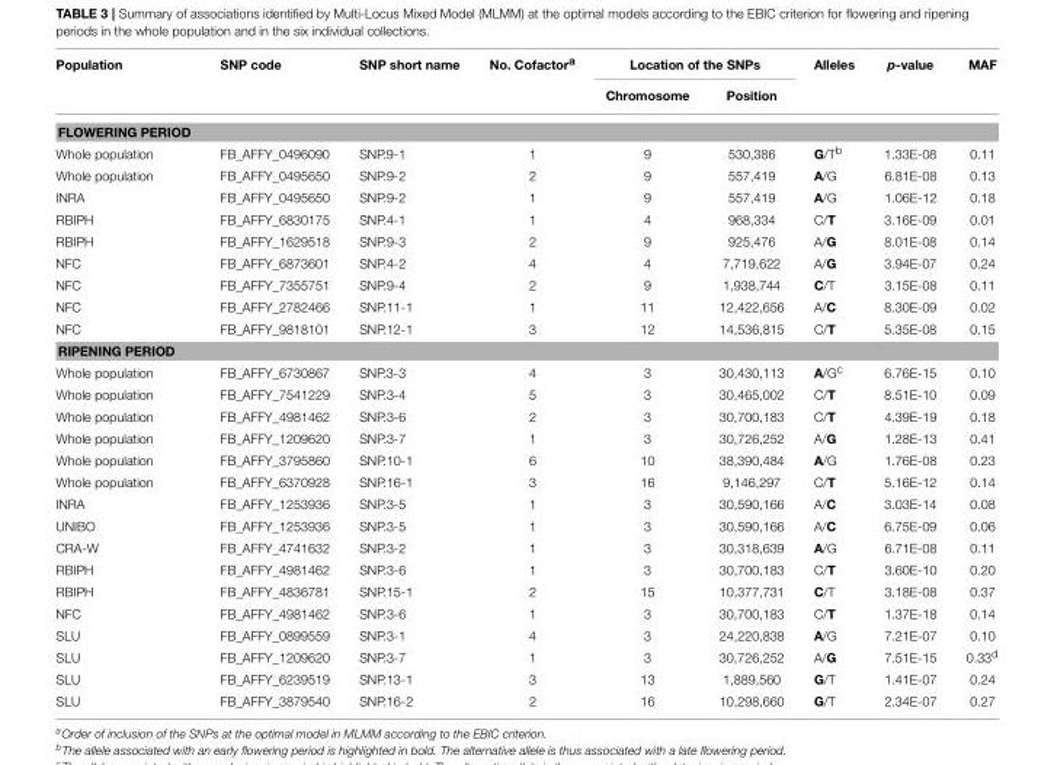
<table><thead><tr><td rowspan="2">Population</td><td rowspan="2">SNP code</td><td rowspan="2">SNP short name</td><td rowspan="2">No. Cofactor<sup>a</sup></td><td colspan="2">Location of the SNPs</td><td rowspan="2">Alleles</td><td rowspan="2">p-value</td><td rowspan="2">MAF</td></tr><tr><td>Chromosome</td><td>Position</td></tr></thead><tbody><tr><td colspan="9">FLOWERING PERIOD</td></tr><tr><td>Whole population</td><td>FB_AFFY_0496090</td><td>SNP.9-1</td><td>1</td><td>9</td><td>530,386</td><td>G/T<sup>b</sup></td><td>1.33E-08</td><td>0.11</td></tr><tr><td>Whole population</td><td>FB_AFFY_0495650</td><td>SNP.9-2</td><td>2</td><td>9</td><td>557,419</td><td>A/G</td><td>6.81E-08</td><td>0.13</td></tr><tr><td>INRA</td><td>FB_AFFY_0495650</td><td>SNP.9-2</td><td>1</td><td>9</td><td>557,419</td><td>A/G</td><td>1.06E-12</td><td>0.18</td></tr><tr><td>RBIPH</td><td>FB_AFFY_6830175</td><td>SNP.4-1</td><td>1</td><td>4</td><td>968,334</td><td>C/T</td><td>3.16E-09</td><td>0.01</td></tr><tr><td>RBIPH</td><td>FB_AFFY_1629518</td><td>SNP.9-3</td><td>2</td><td>9</td><td>925,476</td><td>A/G</td><td>8.01E-08</td><td>0.14</td></tr><tr><td>NFC</td><td>FB_AFFY_6873601</td><td>SNP.4-2</td><td>4</td><td>4</td><td>7,719,622</td><td>A/G</td><td>3.94E-07</td><td>0.24</td></tr><tr><td>NFC</td><td>FB_AFFY_7355751</td><td>SNP.9-4</td><td>2</td><td>9</td><td>1,938,744</td><td>C/T</td><td>3.15E-08</td><td>0.11</td></tr><tr><td>NFC</td><td>FB_AFFY_2782466</td><td>SNP.11-1</td><td>1</td><td>11</td><td>12,422,656</td><td>A/C</td><td>8.30E-09</td><td>0.02</td></tr><tr><td>NFC</td><td>FB_AFFY_9818101</td><td>SNP.12-1</td><td>3</td><td>12</td><td>14,536,815</td><td>C/T</td><td>5.35E-08</td><td>0.15</td></tr><tr><td colspan="9">RIPENING PERIOD</td></tr><tr><td>Whole population</td><td>FB_AFFY_6730867</td><td>SNP.3-3</td><td>4</td><td>3</td><td>30,430,113</td><td>A/G<sup>c</sup></td><td>6.76E-15</td><td>0.10</td></tr><tr><td>Whole population</td><td>FB_AFFY_7541229</td><td>SNP.3-4</td><td>5</td><td>3</td><td>30,465,002</td><td>C/T</td><td>8.51E-10</td><td>0.09</td></tr><tr><td>Whole population</td><td>FB_AFFY_4981462</td><td>SNP.3-6</td><td>2</td><td>3</td><td>30,700,183</td><td>C/T</td><td>4.39E-19</td><td>0.18</td></tr><tr><td>Whole population</td><td>FB_AFFY_1209620</td><td>SNP.3-7</td><td>1</td><td>3</td><td>30,726,252</td><td>A/G</td><td>1.28E-13</td><td>0.41</td></tr><tr><td>Whole population</td><td>FB_AFFY_3795860</td><td>SNP.10-1</td><td>6</td><td>10</td><td>38,390,484</td><td>A/G</td><td>1.76E-08</td><td>0.23</td></tr><tr><td>Whole population</td><td>FB_AFFY_6370928</td><td>SNP.16-1</td><td>3</td><td>16</td><td>9,146,297</td><td>C/T</td><td>5.16E-12</td><td>0.14</td></tr><tr><td>INRA</td><td>FB_AFFY_1253936</td><td>SNP.3-5</td><td>1</td><td>3</td><td>30,590,166</td><td>A/C</td><td>3.03E-14</td><td>0.08</td></tr><tr><td>UNIBO</td><td>FB_AFFY_1253936</td><td>SNP.3-5</td><td>1</td><td>3</td><td>30,590,166</td><td>A/C</td><td>6.75E-09</td><td>0.06</td></tr><tr><td>CRA-W</td><td>FB_AFFY_4741632</td><td>SNP.3-2</td><td>1</td><td>3</td><td>30,318,639</td><td>A/G</td><td>6.71E-08</td><td>0.11</td></tr><tr><td>RBIPH</td><td>FB_AFFY_4981462</td><td>SNP.3-6</td><td>1</td><td>3</td><td>30,700,183</td><td>C/T</td><td>3.60E-10</td><td>0.20</td></tr><tr><td>RBIPH</td><td>FB_AFFY_4836781</td><td>SNP.15-1</td><td>2</td><td>15</td><td>10,377,731</td><td>C/T</td><td>3.18E-08</td><td>0.37</td></tr><tr><td>NFC</td><td>FB_AFFY_4981462</td><td>SNP.3-6</td><td>1</td><td>3</td><td>30,700,183</td><td>C/T</td><td>1.37E-18</td><td>0.14</td></tr><tr><td>SLU</td><td>FB_AFFY_0899559</td><td>SNP.3-1</td><td>4</td><td>3</td><td>24,220,838</td><td>A/G</td><td>7.21E-07</td><td>0.10</td></tr><tr><td>SLU</td><td>FB_AFFY_1209620</td><td>SNP.3-7</td><td>1</td><td>3</td><td>30,726,252</td><td>A/G</td><td>7.51E-15</td><td>0.33<sup>d</sup></td></tr><tr><td>SLU</td><td>FB_AFFY_6239519</td><td>SNP.13-1</td><td>3</td><td>13</td><td>1,889,560</td><td>G/T</td><td>1.41E-07</td><td>0.24</td></tr><tr><td>SLU</td><td>FB_AFFY_3879540</td><td>SNP.16-2</td><td>2</td><td>16</td><td>10,298,660</td><td>G/T</td><td>2.34E-07</td><td>0.27</td></tr></tbody></table>